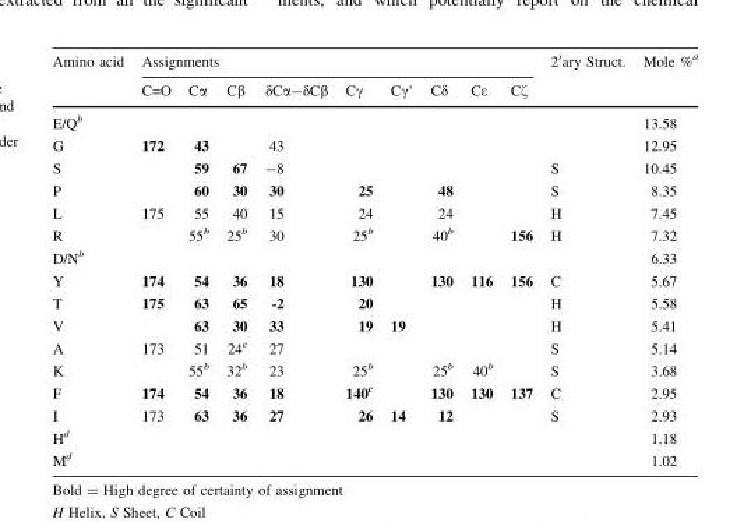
<table><thead><tr><td rowspan="2">Amino acid</td><td colspan="9">Assignments</td><td rowspan="2">2′ary Struct.</td><td rowspan="2">Mole %<sup>a</sup></td></tr><tr><td>C=O</td><td>Cα</td><td>Cβ</td><td>δCα-δCβ</td><td>Cγ</td><td>Cγ’</td><td>Cδ</td><td>Cϵ</td><td>Cζ</td></tr></thead><tbody><tr><td>E/Q<sup>b</sup></td><td></td><td></td><td></td><td></td><td></td><td></td><td></td><td></td><td></td><td></td><td>13.58</td></tr><tr><td>G</td><td>172</td><td>43</td><td></td><td>43</td><td></td><td></td><td></td><td></td><td></td><td></td><td>12.95</td></tr><tr><td>S</td><td></td><td>59</td><td>67</td><td>-8</td><td></td><td></td><td></td><td></td><td></td><td>S</td><td>10.45</td></tr><tr><td>P</td><td></td><td>60</td><td>30</td><td>30</td><td>25</td><td></td><td>48</td><td></td><td></td><td>S</td><td>8.35</td></tr><tr><td>L</td><td>175</td><td>55</td><td>40</td><td>15</td><td>24</td><td></td><td>24</td><td></td><td></td><td>H</td><td>7.45</td></tr><tr><td>R</td><td></td><td>55<sup>b</sup></td><td>25<sup>b</sup></td><td>30</td><td>25<sup>b</sup></td><td></td><td>40<sup>b</sup></td><td></td><td>156</td><td>H</td><td>7.32</td></tr><tr><td>D/N<sup>b</sup></td><td></td><td></td><td></td><td></td><td></td><td></td><td></td><td></td><td></td><td></td><td>6.33</td></tr><tr><td>Y</td><td>174</td><td>54</td><td>36</td><td>18</td><td>130</td><td></td><td>130</td><td>116</td><td>156</td><td>C</td><td>5.67</td></tr><tr><td>T</td><td>175</td><td>63</td><td>65</td><td>-2</td><td>20</td><td></td><td></td><td></td><td></td><td>H</td><td>5.58</td></tr><tr><td>V</td><td></td><td>63</td><td>30</td><td>33</td><td>19</td><td>19</td><td></td><td></td><td></td><td>H</td><td>5.41</td></tr><tr><td>A</td><td>173</td><td>51</td><td>24<sup>e</sup></td><td>27</td><td></td><td></td><td></td><td></td><td></td><td>S</td><td>5.14</td></tr><tr><td>K</td><td></td><td>55<sup>b</sup></td><td>32<sup>b</sup></td><td>23</td><td>25<sup>b</sup></td><td></td><td>25<sup>b</sup></td><td>40<sup>b</sup></td><td></td><td>S</td><td>3.68</td></tr><tr><td>F</td><td>174</td><td>54</td><td>36</td><td>18</td><td>140<sup>c</sup></td><td></td><td>130</td><td>130</td><td>137</td><td>C</td><td>2.95</td></tr><tr><td>I</td><td>173</td><td>63</td><td>36</td><td>27</td><td>26</td><td>14</td><td>12</td><td></td><td></td><td>S</td><td>2.93</td></tr><tr><td>H<sup>d</sup></td><td></td><td></td><td></td><td></td><td></td><td></td><td></td><td></td><td></td><td></td><td>1.18</td></tr><tr><td>M<sup>d</sup></td><td></td><td></td><td></td><td></td><td></td><td></td><td></td><td></td><td></td><td></td><td>1.02</td></tr></tbody></table>